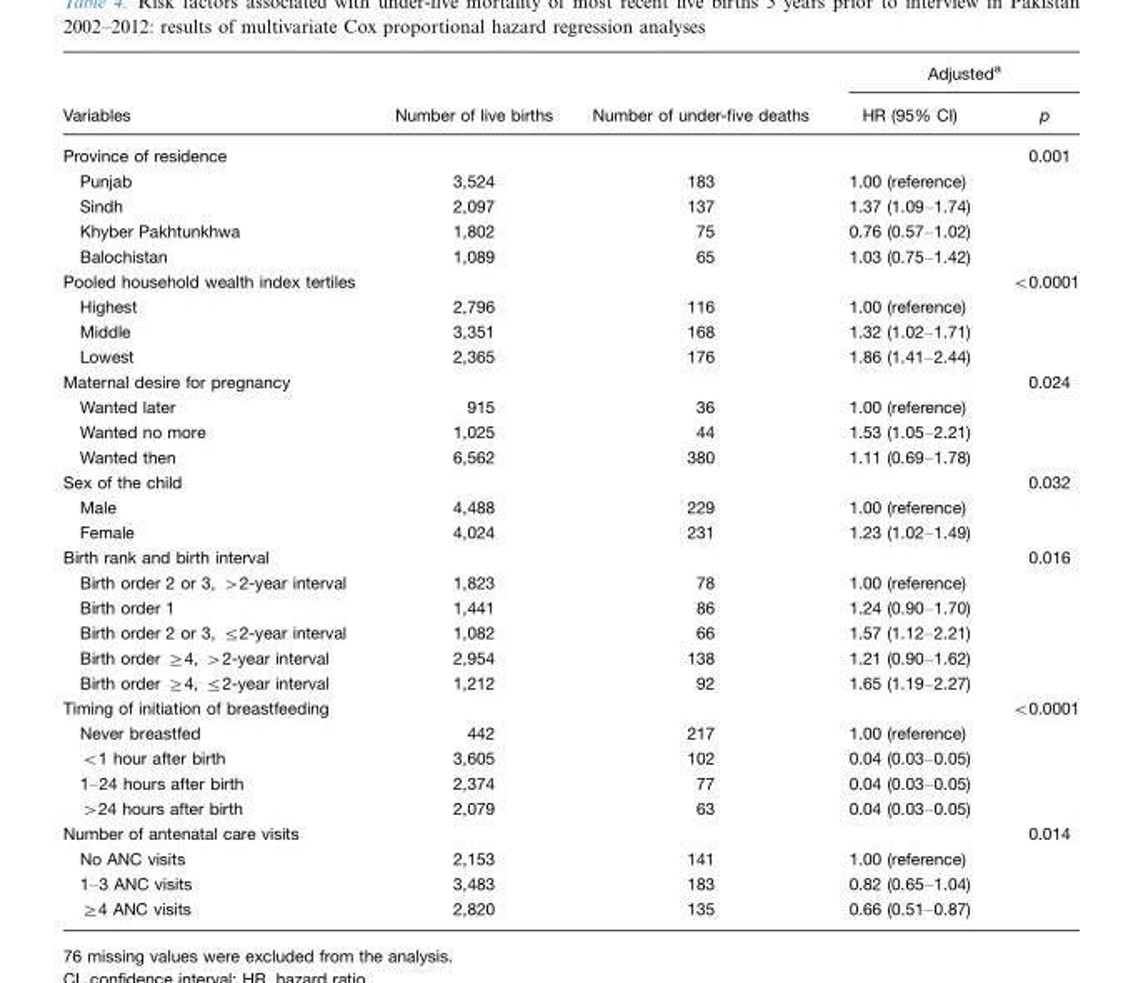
<table><thead><tr><td rowspan="2">Variables</td><td rowspan="2">Number of live births</td><td rowspan="2">Number of under-five deaths</td><td colspan="2">Adjusted<sup>a</sup></td></tr><tr><td>HR (95% CI)</td><td>p</td></tr></thead><tbody><tr><td>Province of residence</td><td></td><td></td><td></td><td>0.001</td></tr><tr><td>Punjab</td><td>3,524</td><td>183</td><td>1.00 (reference)</td><td></td></tr><tr><td>Sindh</td><td>2,097</td><td>137</td><td>1.37 (1.09–1.74)</td><td></td></tr><tr><td>Khyber Pakhtunkhwa</td><td>1,802</td><td>75</td><td>0.76 (0.57–1.02)</td><td></td></tr><tr><td>Balochistan</td><td>1,089</td><td>65</td><td>1.03 (0.75–1.42)</td><td></td></tr><tr><td>Pooled household wealth index tertiles</td><td></td><td></td><td></td><td>&lt;0.0001</td></tr><tr><td>Highest</td><td>2,796</td><td>116</td><td>1.00 (reference)</td><td></td></tr><tr><td>Middle</td><td>3,351</td><td>168</td><td>1.32 (1.02–1.71)</td><td></td></tr><tr><td>Lowest</td><td>2,365</td><td>176</td><td>1.86 (1.41–2.44)</td><td></td></tr><tr><td>Maternal desire for pregnancy</td><td></td><td></td><td></td><td>0.024</td></tr><tr><td>Wanted later</td><td>915</td><td>36</td><td>1.00 (reference)</td><td></td></tr><tr><td>Wanted no more</td><td>1,025</td><td>44</td><td>1.53 (1.05–2.21)</td><td></td></tr><tr><td>Wanted then</td><td>6,562</td><td>380</td><td>1.11 (0.69–1.78)</td><td></td></tr><tr><td>Sex of the child</td><td></td><td></td><td></td><td>0.032</td></tr><tr><td>Male</td><td>4,488</td><td>229</td><td>1.00 (reference)</td><td></td></tr><tr><td>Female</td><td>4,024</td><td>231</td><td>1.23 (1.02–1.49)</td><td></td></tr><tr><td>Birth rank and birth interval</td><td></td><td></td><td></td><td>0.016</td></tr><tr><td>Birth order 2 or 3, &gt;2-year interval</td><td>1,823</td><td>78</td><td>1.00 (reference)</td><td></td></tr><tr><td>Birth order 1</td><td>1,441</td><td>86</td><td>1.24 (0.90–1.70)</td><td></td></tr><tr><td>Birth order 2 or 3, ≤2-year interval</td><td>1,082</td><td>66</td><td>1.57 (1.12–2.21)</td><td></td></tr><tr><td>Birth order ≥4, &gt;2-year interval</td><td>2,954</td><td>138</td><td>1.21 (0.90–1.62)</td><td></td></tr><tr><td>Birth order ≥4, ≤2-year interval</td><td>1,212</td><td>92</td><td>1.65 (1.19–2.27)</td><td></td></tr><tr><td>Timing of initiation of breastfeeding</td><td></td><td></td><td></td><td>&lt;0.0001</td></tr><tr><td>Never breastfed</td><td>442</td><td>217</td><td>1.00 (reference)</td><td></td></tr><tr><td>&lt;1 hour after birth</td><td>3,605</td><td>102</td><td>0.04 (0.03–0.05)</td><td></td></tr><tr><td>1–24 hours after birth</td><td>2,374</td><td>77</td><td>0.04 (0.03–0.05)</td><td></td></tr><tr><td>&gt;24 hours after birth</td><td>2,079</td><td>63</td><td>0.04 (0.03–0.05)</td><td></td></tr><tr><td>Number of antenatal care visits</td><td></td><td></td><td></td><td>0.014</td></tr><tr><td>No ANC visits</td><td>2,153</td><td>141</td><td>1.00 (reference)</td><td></td></tr><tr><td>1–3 ANC visits</td><td>3,483</td><td>183</td><td>0.82 (0.65–1.04)</td><td></td></tr><tr><td>≥4 ANC visits</td><td>2,820</td><td>135</td><td>0.66 (0.51–0.87)</td><td></td></tr></tbody></table>